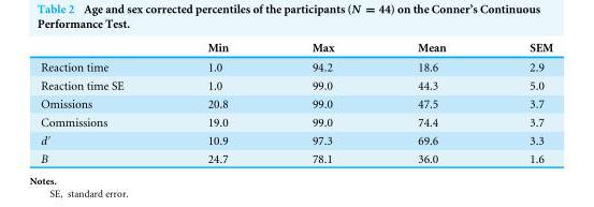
<table><thead><tr><td></td><td>Min</td><td>Max</td><td>Mean</td><td>SEM</td></tr></thead><tbody><tr><td>Reaction time</td><td>1.0</td><td>94.2</td><td>18.6</td><td>2.9</td></tr><tr><td>Reaction time SE</td><td>1.0</td><td>99.0</td><td>44.3</td><td>5.0</td></tr><tr><td>Omissions</td><td>20.8</td><td>99.0</td><td>47.5</td><td>3.7</td></tr><tr><td>Commissions</td><td>19.0</td><td>99.0</td><td>74.4</td><td>3.7</td></tr><tr><td>d′</td><td>10.9</td><td>97.3</td><td>69.6</td><td>3.3</td></tr><tr><td>B</td><td>24.7</td><td>78.1</td><td>36.0</td><td>1.6</td></tr></tbody></table>